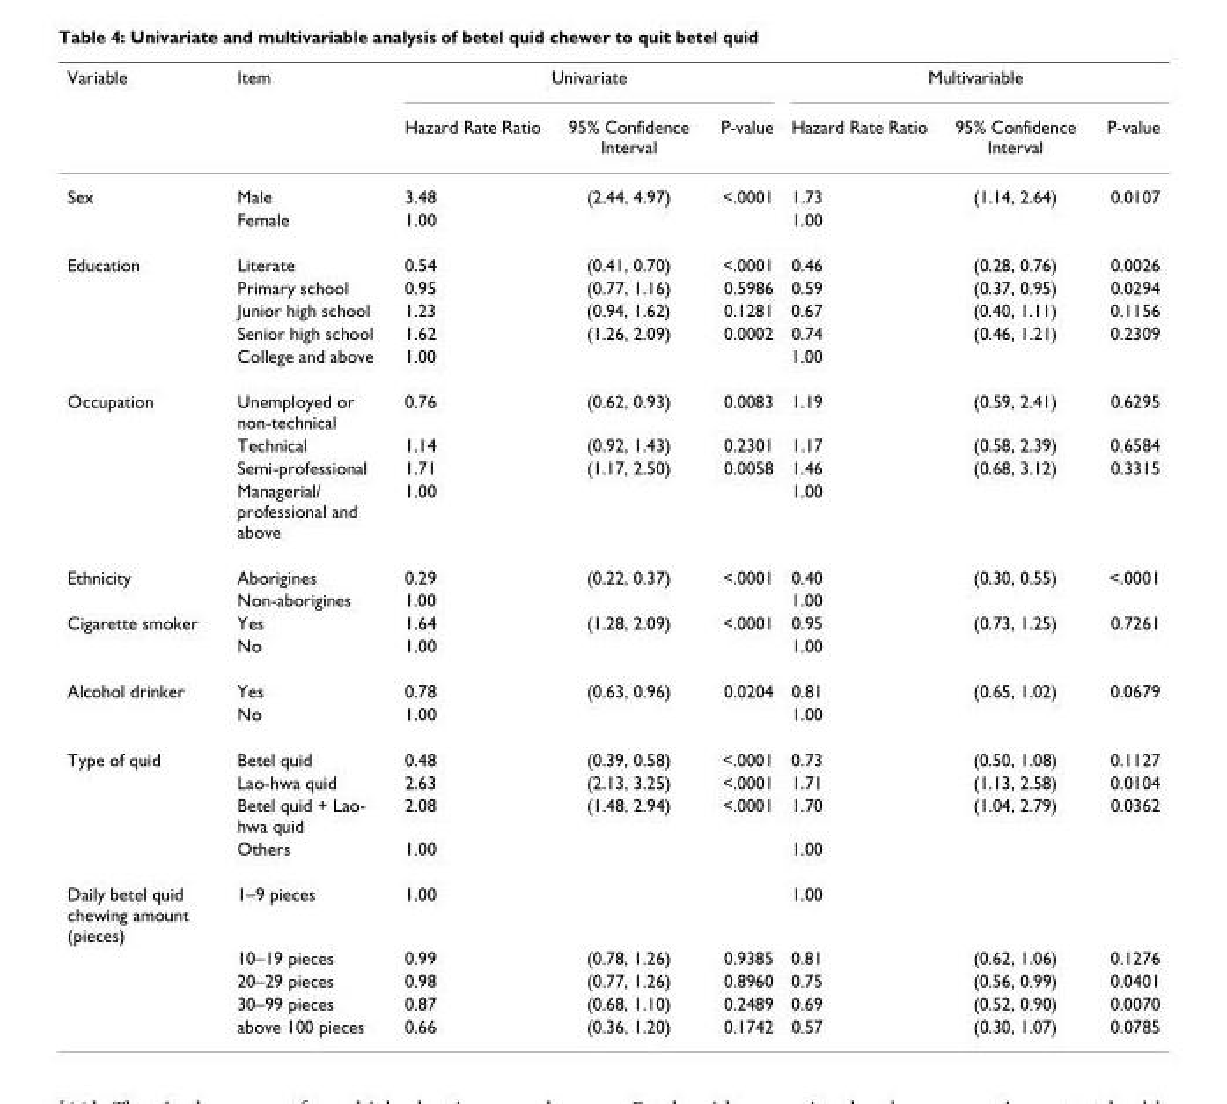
<table><thead><tr><td rowspan="2">Variable</td><td rowspan="2">Item</td><td colspan="3">Univariate</td><td colspan="3">Multivariable</td></tr><tr><td>Hazard Rate Ratio</td><td>95% Confidence Interval</td><td>P-value</td><td>Hazard Rate Ratio</td><td>95% Confidence Interval</td><td>P-value</td></tr></thead><tbody><tr><td rowspan="2">Sex</td><td>Male</td><td>3.48</td><td>(2.44, 4.97)</td><td>&lt;.0001</td><td>1.73</td><td>(1.14, 2.64)</td><td>0.0107</td></tr><tr><td>Female</td><td>1.00</td><td></td><td></td><td>1.00</td><td></td><td></td></tr><tr><td rowspan="5">Education</td><td>Literate</td><td>0.54</td><td>(0.41, 0.70)</td><td>&lt;.0001</td><td>0.46</td><td>(0.28, 0.76)</td><td>0.0026</td></tr><tr><td>Primary school</td><td>0.95</td><td>(0.77, 1.16)</td><td>0.5986</td><td>0.59</td><td>(0.37, 0.95)</td><td>0.0294</td></tr><tr><td>Junior high school</td><td>1.23</td><td>(0.94, 1.62)</td><td>0.1281</td><td>0.67</td><td>(0.40, 1.11)</td><td>0.1156</td></tr><tr><td>Senior high school</td><td>1.62</td><td>(1.26, 2.09)</td><td>0.0002</td><td>0.74</td><td>(0.46, 1.21)</td><td>0.2309</td></tr><tr><td>College and above</td><td>1.00</td><td></td><td></td><td>1.00</td><td></td><td></td></tr><tr><td rowspan="4">Occupation</td><td>Unemployed or non-technical</td><td>0.76</td><td>(0.62, 0.93)</td><td>0.0083</td><td>1.19</td><td>(0.59, 2.41)</td><td>0.6295</td></tr><tr><td>Technical</td><td>1.14</td><td>(0.92, 1.43)</td><td>0.2301</td><td>1.17</td><td>(0.58, 2.39)</td><td>0.6584</td></tr><tr><td>Semi-professional</td><td>1.71</td><td>(1.17, 2.50)</td><td>0.0058</td><td>1.46</td><td>(0.68, 3.12)</td><td>0.3315</td></tr><tr><td>Managerial/ professional and above</td><td>1.00</td><td></td><td></td><td>1.00</td><td></td><td></td></tr><tr><td rowspan="2">Ethnicity</td><td>Aborigines</td><td>0.29</td><td>(0.22, 0.37)</td><td>&lt;.0001</td><td>0.40</td><td>(0.30, 0.55)</td><td>&lt;.0001</td></tr><tr><td>Non-aborigines</td><td>1.00</td><td></td><td></td><td>1.00</td><td></td><td></td></tr><tr><td rowspan="2">Cigarette smoker</td><td>Yes</td><td>1.64</td><td>(1.28, 2.09)</td><td>&lt;.0001</td><td>0.95</td><td>(0.73, 1.25)</td><td>0.7261</td></tr><tr><td>No</td><td>1.00</td><td></td><td></td><td>1.00</td><td></td><td></td></tr><tr><td rowspan="2">Alcohol drinker</td><td>Yes</td><td>0.78</td><td>(0.63, 0.96)</td><td>0.0204</td><td>0.81</td><td>(0.65, 1.02)</td><td>0.0679</td></tr><tr><td>No</td><td>1.00</td><td></td><td></td><td>1.00</td><td></td><td></td></tr><tr><td rowspan="4">Type of quid</td><td>Betel quid</td><td>0.48</td><td>(0.39, 0.58)</td><td>&lt;.0001</td><td>0.73</td><td>(0.50, 1.08)</td><td>0.1127</td></tr><tr><td>Lao-hwa quid</td><td>2.63</td><td>(2.13, 3.25)</td><td>&lt;.0001</td><td>1.71</td><td>(1.13, 2.58)</td><td>0.0104</td></tr><tr><td>Betel quid + Lao- hwa quid</td><td>2.08</td><td>(1.48, 2.94)</td><td>&lt;.0001</td><td>1.70</td><td>(1.04, 2.79)</td><td>0.0362</td></tr><tr><td>Others</td><td>1.00</td><td></td><td></td><td>1.00</td><td></td><td></td></tr><tr><td rowspan="5">Daily betel quid chewing amount (pieces)</td><td>1–9 pieces</td><td>1.00</td><td></td><td></td><td>1.00</td><td></td><td></td></tr><tr><td>10–19 pieces</td><td>0.99</td><td>(0.78, 1.26)</td><td>0.9385</td><td>0.81</td><td>(0.62, 1.06)</td><td>0.1276</td></tr><tr><td>20–29 pieces</td><td>0.98</td><td>(0.77, 1.26)</td><td>0.8960</td><td>0.75</td><td>(0.56, 0.99)</td><td>0.0401</td></tr><tr><td>30–99 pieces</td><td>0.87</td><td>(0.68, 1.10)</td><td>0.2489</td><td>0.69</td><td>(0.52, 0.90)</td><td>0.0070</td></tr><tr><td>above 100 pieces</td><td>0.66</td><td>(0.36, 1.20)</td><td>0.1742</td><td>0.57</td><td>(0.30, 1.07)</td><td>0.0785</td></tr></tbody></table>